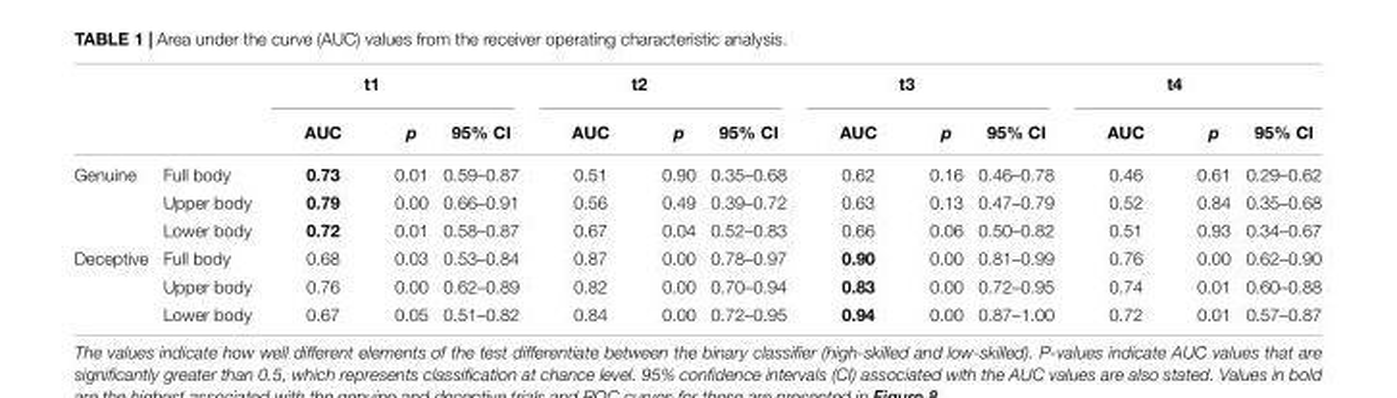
<table><thead><tr><td rowspan="2"></td><td rowspan="2"></td><td colspan="3">t1</td><td colspan="3">t2</td><td colspan="3">t3</td><td colspan="3">t4</td></tr><tr><td>AUC</td><td>p</td><td>95% CI</td><td>AUC</td><td>p</td><td>95% CI</td><td>AUC</td><td>p</td><td>95% CI</td><td>AUC</td><td>p</td><td>95% CI</td></tr></thead><tbody><tr><td rowspan="3">Genuine</td><td>Full body</td><td>0.73</td><td>0.01</td><td>0.59–0.87</td><td>0.51</td><td>0.90</td><td>0.35–0.68</td><td>0.62</td><td>0.16</td><td>0.46–0.78</td><td>0.46</td><td>0.61</td><td>0.29–0.62</td></tr><tr><td>Upper body</td><td>0.79</td><td>0.00</td><td>0.66–0.91</td><td>0.56</td><td>0.49</td><td>0.39–0.72</td><td>0.63</td><td>0.13</td><td>0.47–0.79</td><td>0.52</td><td>0.84</td><td>0.35–0.68</td></tr><tr><td>Lower body</td><td>0.72</td><td>0.01</td><td>0.58–0.87</td><td>0.67</td><td>0.04</td><td>0.52–0.83</td><td>0.66</td><td>0.06</td><td>0.50–0.82</td><td>0.51</td><td>0.93</td><td>0.34–0.67</td></tr><tr><td rowspan="3">Deceptive</td><td>Full body</td><td>0.68</td><td>0.03</td><td>0.53–0.84</td><td>0.87</td><td>0.00</td><td>0.78–0.97</td><td>0.90</td><td>0.00</td><td>0.81–0.99</td><td>0.76</td><td>0.00</td><td>0.62–0.90</td></tr><tr><td>Upper body</td><td>0.76</td><td>0.00</td><td>0.62–0.89</td><td>0.82</td><td>0.00</td><td>0.70–0.94</td><td>0.83</td><td>0.00</td><td>0.72–0.95</td><td>0.74</td><td>0.01</td><td>0.60–0.88</td></tr><tr><td>Lower body</td><td>0.67</td><td>0.05</td><td>0.51–0.82</td><td>0.84</td><td>0.00</td><td>0.72–0.95</td><td>0.94</td><td>0.00</td><td>0.87–1.00</td><td>0.72</td><td>0.01</td><td>0.57–0.87</td></tr></tbody></table>